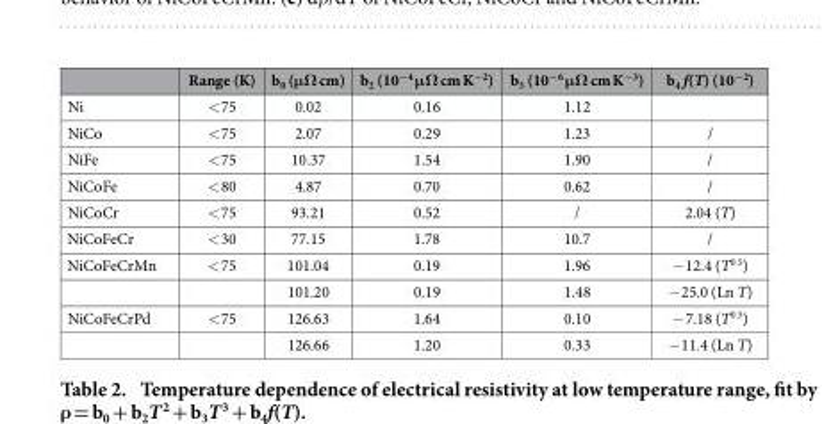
<table><thead><tr><td></td><td>Range (K)</td><td>b<sub>0</sub> (μΩ cm)</td><td>b<sub>2</sub> (10<sup>−4</sup> μΩ cm K<sup>−2</sup>)</td><td>b<sub>3</sub> (10<sup>−6</sup> μΩ cm K<sup>−3</sup>)</td><td>b<sub>4</sub> f(T) (10<sup>−2</sup>)</td></tr></thead><tbody><tr><td>Ni</td><td>&lt; 75</td><td>0.02</td><td>0.16</td><td>1.12</td><td></td></tr><tr><td>NiCo</td><td>&lt; 75</td><td>2.07</td><td>0.29</td><td>1.23</td><td>/</td></tr><tr><td>NiFe</td><td>&lt; 75</td><td>10.37</td><td>1.54</td><td>1.90</td><td>/</td></tr><tr><td>NiCoFe</td><td>&lt; 80</td><td>4.87</td><td>0.70</td><td>0.62</td><td>/</td></tr><tr><td>NiCoCr</td><td>&lt; 75</td><td>93.21</td><td>0.52</td><td>/</td><td>2.04 (T)</td></tr><tr><td>NiCoFeCr</td><td>&lt; 30</td><td>77.15</td><td>1.78</td><td>10.7</td><td>/</td></tr><tr><td rowspan="2">NiCoFeCrMn</td><td>&lt; 75</td><td>101.04</td><td>0.19</td><td>1.96</td><td>− 12.4 (T<sup>0.5</sup>)</td></tr><tr><td></td><td>101.20</td><td>0.19</td><td>1.48</td><td>− 25.0 (Ln T)</td></tr><tr><td rowspan="2">NiCoFeCrPd</td><td>&lt; 75</td><td>126.63</td><td>1.64</td><td>0.10</td><td>− 7.18 (T<sup>0.5</sup>)</td></tr><tr><td></td><td>126.66</td><td>1.20</td><td>0.33</td><td>− 11.4 (Ln T)</td></tr></tbody></table>